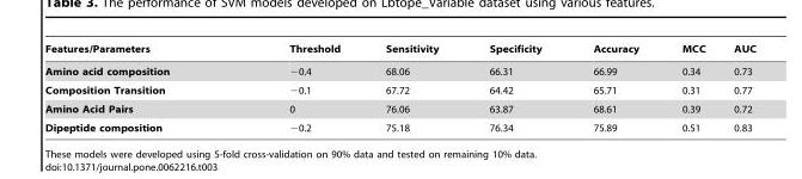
<table><thead><tr><td>Features/Parameters</td><td>Threshold</td><td>Sensitivity</td><td>Specificity</td><td>Accuracy</td><td>MCC</td><td>AUC</td></tr></thead><tbody><tr><td>Amino acid composition</td><td>−0.4</td><td>68.06</td><td>66.31</td><td>66.99</td><td>0.34</td><td>0.73</td></tr><tr><td>Composition Transition</td><td>−0.1</td><td>67.72</td><td>64.42</td><td>65.71</td><td>0.31</td><td>0.77</td></tr><tr><td>Amino Acid Pairs</td><td>0</td><td>76.06</td><td>63.87</td><td>68.61</td><td>0.39</td><td>0.72</td></tr><tr><td>Dipeptide composition</td><td>−0.2</td><td>75.18</td><td>76.34</td><td>75.89</td><td>0.51</td><td>0.83</td></tr></tbody></table>